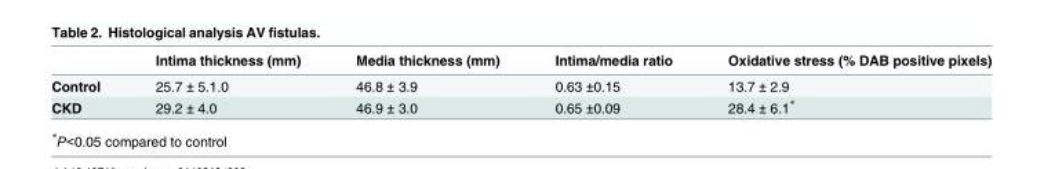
<table><thead><tr><td></td><td>Intima thickness (mm)</td><td>Media thickness (mm)</td><td>Intima/media ratio</td><td>Oxidative stress (% DAB positive pixels)</td></tr></thead><tbody><tr><td>Control</td><td>25.7 ± 5.1.0</td><td>46.8 ± 3.9</td><td>0.63 ±0.15</td><td>13.7 ± 2.9</td></tr><tr><td>CKD</td><td>29.2 ± 4.0</td><td>46.9 ± 3.0</td><td>0.65 ±0.09</td><td>28.4 ± 6.1*</td></tr></tbody></table>